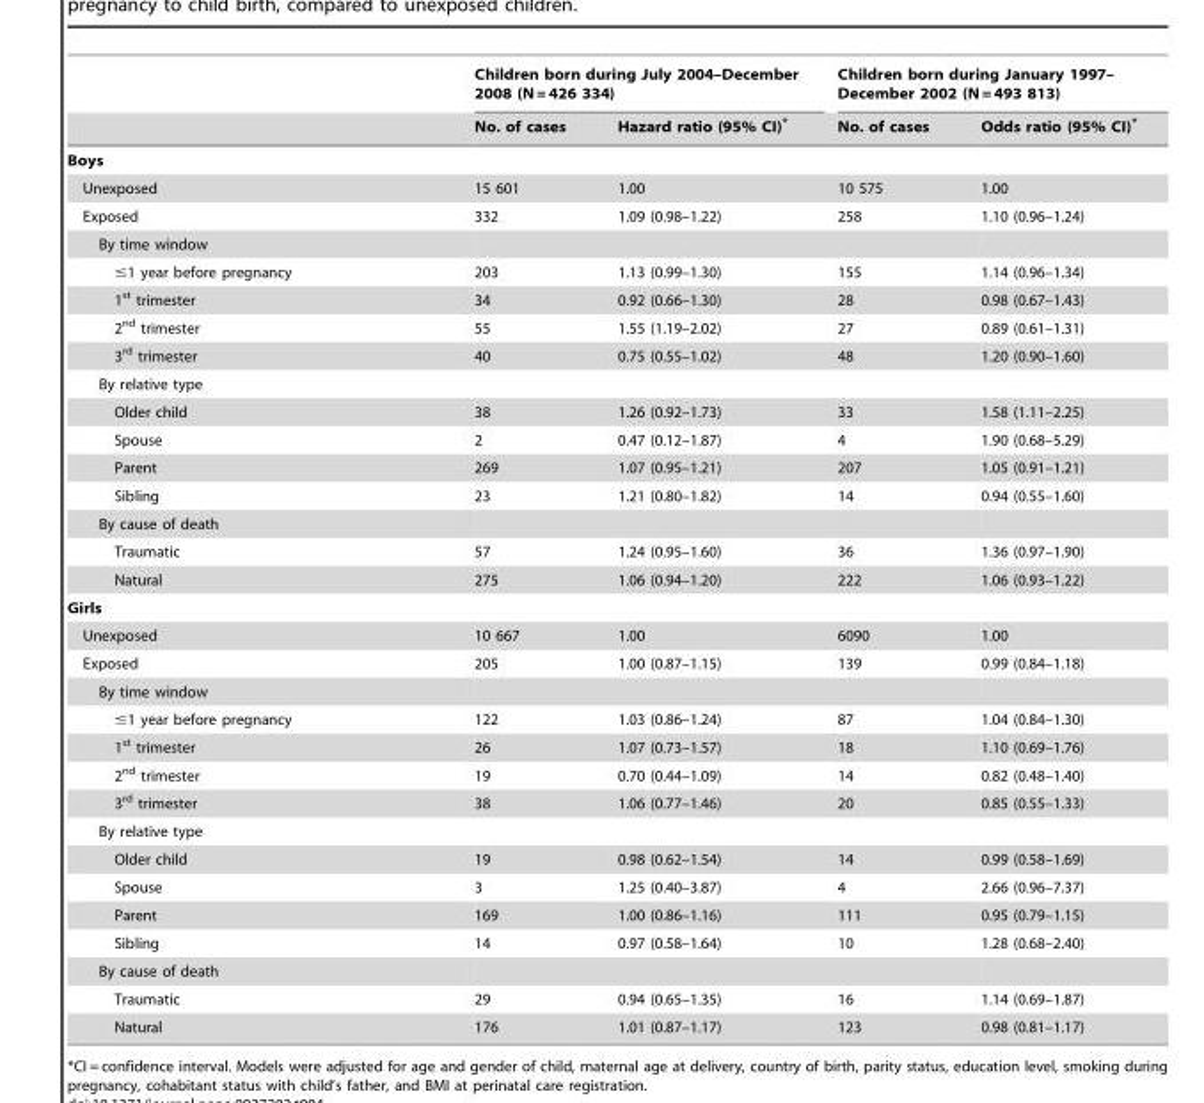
<table><thead><tr><td rowspan="2"></td><td colspan="2">Children born during July 2004–December 2008 (N = 426 334)</td><td colspan="2">Children born during January 1997– December 2002 (N = 493 813)</td></tr><tr><td>No. of cases</td><td>Hazard ratio (95% CI)*</td><td>No. of cases</td><td>Odds ratio (95% CI)*</td></tr></thead><tbody><tr><td colspan="5">Boys</td></tr><tr><td>Unexposed</td><td>15 601</td><td>1.00</td><td>10 575</td><td>1.00</td></tr><tr><td>Exposed</td><td>332</td><td>1.09 (0.98–1.22)</td><td>258</td><td>1.10 (0.96–1.24)</td></tr><tr><td colspan="5">By time window</td></tr><tr><td>≤1 year before pregnancy</td><td>203</td><td>1.13 (0.99–1.30)</td><td>155</td><td>1.14 (0.96–1.34)</td></tr><tr><td>1<sup>st</sup> trimester</td><td>34</td><td>0.92 (0.66–1.30)</td><td>28</td><td>0.98 (0.67–1.43)</td></tr><tr><td>2<sup>nd</sup> trimester</td><td>55</td><td>1.55 (1.19–2.02)</td><td>27</td><td>0.89 (0.61–1.31)</td></tr><tr><td>3<sup>rd</sup> trimester</td><td>40</td><td>0.75 (0.55–1.02)</td><td>48</td><td>1.20 (0.90–1.60)</td></tr><tr><td colspan="5">By relative type</td></tr><tr><td>Older child</td><td>38</td><td>1.26 (0.92–1.73)</td><td>33</td><td>1.58 (1.11–2.25)</td></tr><tr><td>Spouse</td><td>2</td><td>0.47 (0.12–1.87)</td><td>4</td><td>1.90 (0.68–5.29)</td></tr><tr><td>Parent</td><td>269</td><td>1.07 (0.95–1.21)</td><td>207</td><td>1.05 (0.91–1.21)</td></tr><tr><td>Sibling</td><td>23</td><td>1.21 (0.80–1.82)</td><td>14</td><td>0.94 (0.55–1.60)</td></tr><tr><td colspan="5">By cause of death</td></tr><tr><td>Traumatic</td><td>57</td><td>1.24 (0.95–1.60)</td><td>36</td><td>1.36 (0.97–1.90)</td></tr><tr><td>Natural</td><td>275</td><td>1.06 (0.94–1.20)</td><td>222</td><td>1.06 (0.93–1.22)</td></tr><tr><td colspan="5">Girls</td></tr><tr><td>Unexposed</td><td>10 667</td><td>1.00</td><td>6090</td><td>1.00</td></tr><tr><td>Exposed</td><td>205</td><td>1.00 (0.87–1.15)</td><td>139</td><td>0.99 (0.84–1.18)</td></tr><tr><td colspan="5">By time window</td></tr><tr><td>≤1 year before pregnancy</td><td>122</td><td>1.03 (0.86–1.24)</td><td>87</td><td>1.04 (0.84–1.30)</td></tr><tr><td>1<sup>st</sup> trimester</td><td>26</td><td>1.07 (0.73–1.57)</td><td>18</td><td>1.10 (0.69–1.76)</td></tr><tr><td>2<sup>nd</sup> trimester</td><td>19</td><td>0.70 (0.44–1.09)</td><td>14</td><td>0.82 (0.48–1.40)</td></tr><tr><td>3<sup>rd</sup> trimester</td><td>38</td><td>1.06 (0.77–1.46)</td><td>20</td><td>0.85 (0.55–1.33)</td></tr><tr><td colspan="5">By relative type</td></tr><tr><td>Older child</td><td>19</td><td>0.98 (0.62–1.54)</td><td>14</td><td>0.99 (0.58–1.69)</td></tr><tr><td>Spouse</td><td>3</td><td>1.25 (0.40–3.87)</td><td>4</td><td>2.66 (0.96–7.37)</td></tr><tr><td>Parent</td><td>169</td><td>1.00 (0.86–1.16)</td><td>111</td><td>0.95 (0.79–1.15)</td></tr><tr><td>Sibling</td><td>14</td><td>0.97 (0.58–1.64)</td><td>10</td><td>1.28 (0.68–2.40)</td></tr><tr><td colspan="5">By cause of death</td></tr><tr><td>Traumatic</td><td>29</td><td>0.94 (0.65–1.35)</td><td>16</td><td>1.14 (0.69–1.87)</td></tr><tr><td>Natural</td><td>176</td><td>1.01 (0.87–1.17)</td><td>123</td><td>0.98 (0.81–1.17)</td></tr></tbody></table>